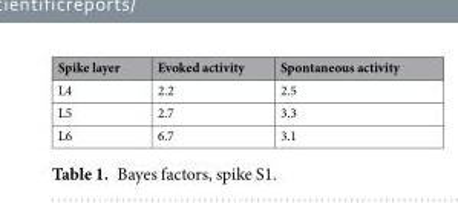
<table><thead><tr><td>Spike layer</td><td>Evoked activity</td><td>Spontaneous activity</td></tr></thead><tbody><tr><td>L4</td><td>2.2</td><td>2.5</td></tr><tr><td>L5</td><td>2.7</td><td>3.3</td></tr><tr><td>L6</td><td>6.7</td><td>3.1</td></tr></tbody></table>